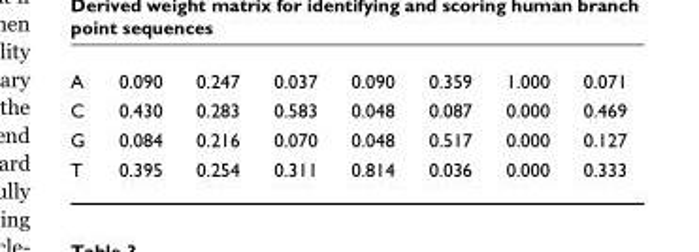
<table><tbody><tr><td>A</td><td>0.090</td><td>0.247</td><td>0.037</td><td>0.090</td><td>0.359</td><td>1.000</td><td>0.071</td></tr><tr><td>C</td><td>0.430</td><td>0.283</td><td>0.583</td><td>0.048</td><td>0.087</td><td>0.000</td><td>0.469</td></tr><tr><td>G</td><td>0.084</td><td>0.216</td><td>0.070</td><td>0.048</td><td>0.517</td><td>0.000</td><td>0.127</td></tr><tr><td>T</td><td>0.395</td><td>0.254</td><td>0.311</td><td>0.814</td><td>0.036</td><td>0.000</td><td>0.333</td></tr></tbody></table>